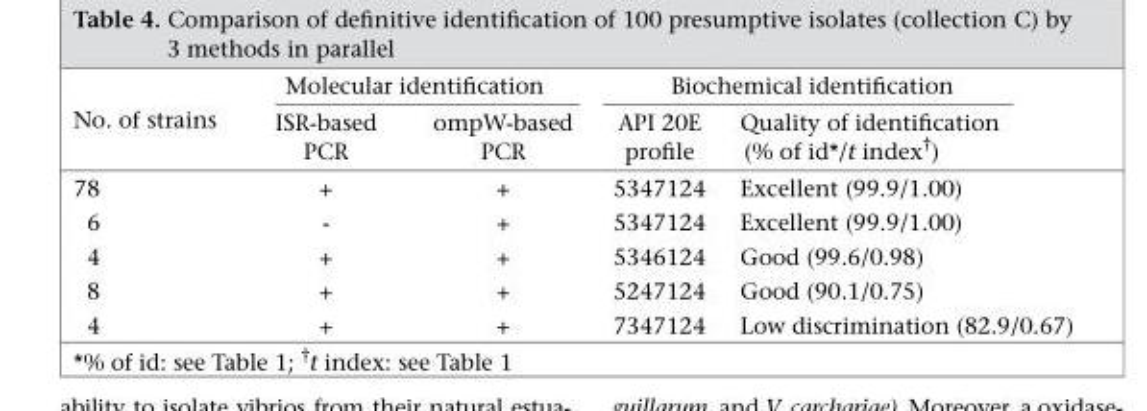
<table><thead><tr><td rowspan="2">No. of strains</td><td colspan="2">Molecular identification</td><td colspan="2">Biochemical identification</td></tr><tr><td>ISR-based PCR</td><td>ompW-based PCR</td><td>API 20E profile</td><td>Quality of identification (% of id*/t index†)</td></tr></thead><tbody><tr><td>78</td><td>+</td><td>+</td><td>5347124</td><td>Excellent (99.9/1.00)</td></tr><tr><td>6</td><td>-</td><td>+</td><td>5347124</td><td>Excellent (99.9/1.00)</td></tr><tr><td>4</td><td>+</td><td>+</td><td>5346124</td><td>Good (99.6/0.98)</td></tr><tr><td>8</td><td>+</td><td>+</td><td>5247124</td><td>Good (90.1/0.75)</td></tr><tr><td>4</td><td>+</td><td>+</td><td>7347124</td><td>Low discrimination (82.9/0.67)</td></tr></tbody></table>